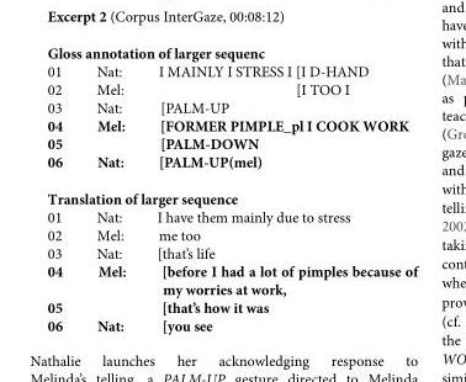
<table><tbody><tr><td colspan="3">Gloss annotation of larger sequenc</td></tr><tr><td>01</td><td>Nat:</td><td>I MAINLY I STRESS I [I D-HAND</td></tr><tr><td>02</td><td>Mel:</td><td>[I TOO I</td></tr><tr><td>03</td><td>Nat:</td><td>[PALM-UP</td></tr><tr><td>04</td><td>Mel:</td><td>[FORMER PIMPLE_pl I COOK WORK</td></tr><tr><td>05</td><td></td><td>[PALM-DOWN</td></tr><tr><td>06</td><td>Nat:</td><td>[PALM-UP(mel)</td></tr><tr><td colspan="3">Translation of larger sequence</td></tr><tr><td>01</td><td>Nat:</td><td>I have them mainly due to stress</td></tr><tr><td>02</td><td>Mel:</td><td>me too</td></tr><tr><td>03</td><td>Nat:</td><td>[that’s life</td></tr><tr><td>04</td><td>Mel:</td><td>[before I had a lot of pimples because of my worries at work,</td></tr><tr><td>05</td><td></td><td>[that’s how it was</td></tr><tr><td>06</td><td>Nat:</td><td>[you see</td></tr></tbody></table>